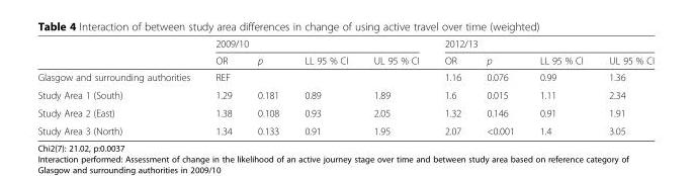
<table><thead><tr><td rowspan="2"></td><td colspan="4">2009/10</td><td colspan="4">2012/13</td></tr><tr><td>OR</td><td>p</td><td>LL 95 % CI</td><td>UL 95 % CI</td><td>OR</td><td>p</td><td>LL 95 % CI</td><td>UL 95 % CI</td></tr></thead><tbody><tr><td>Glasgow and surrounding authorities</td><td colspan="4">REF</td><td>1.16</td><td>0.076</td><td>0.99</td><td>1.36</td></tr><tr><td>Study Area 1 (South)</td><td>1.29</td><td>0.181</td><td>0.89</td><td>1.89</td><td>1.6</td><td>0.015</td><td>1.11</td><td>2.34</td></tr><tr><td>Study Area 2 (East)</td><td>1.38</td><td>0.108</td><td>0.93</td><td>2.05</td><td>1.32</td><td>0.146</td><td>0.91</td><td>1.91</td></tr><tr><td>Study Area 3 (North)</td><td>1.34</td><td>0.133</td><td>0.91</td><td>1.95</td><td>2.07</td><td>&lt;0.001</td><td>1.4</td><td>3.05</td></tr></tbody></table>